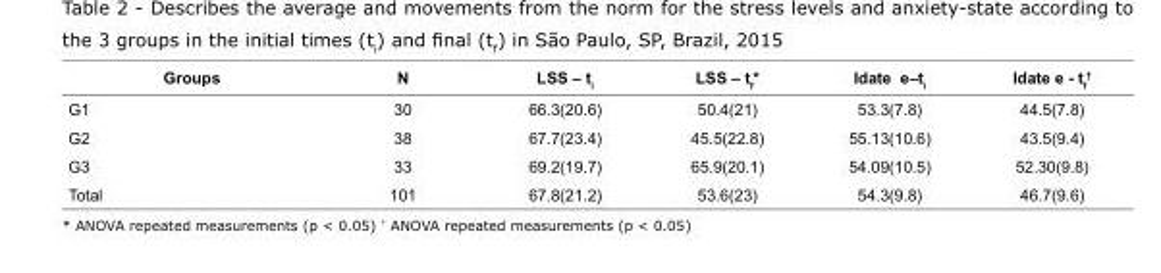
<table><thead><tr><td>Groups</td><td>N</td><td>LSS – t<sub>i</sub></td><td>LSS – t<sub>f</sub>*</td><td>Idate e–t<sub>i</sub></td><td>Idate e - t<sub>f</sub> <sup>†</sup></td></tr></thead><tbody><tr><td>G1</td><td>30</td><td>66.3(20.6)</td><td>50.4(21)</td><td>53.3(7.8)</td><td>44.5(7.8)</td></tr><tr><td>G2</td><td>38</td><td>67.7(23.4)</td><td>45.5(22.8)</td><td>55.13(10.6)</td><td>43.5(9.4)</td></tr><tr><td>G3</td><td>33</td><td>69.2(19.7)</td><td>65.9(20.1)</td><td>54.09(10.5)</td><td>52.30(9.8)</td></tr><tr><td>Total</td><td>101</td><td>67.8(21.2)</td><td>53.6(23)</td><td>54.3(9.8)</td><td>46.7(9.6)</td></tr></tbody></table>